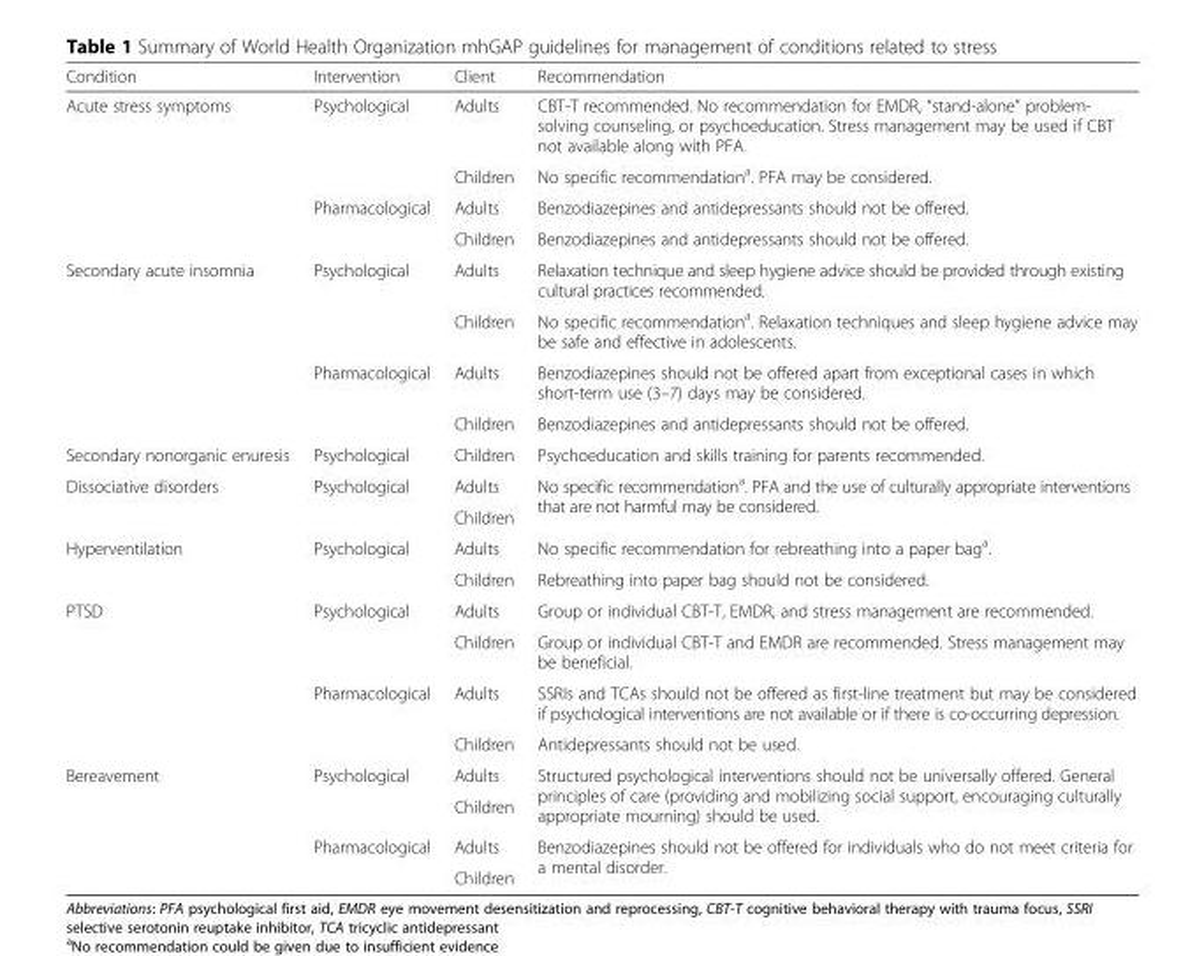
<table><thead><tr><td>Condition</td><td>Intervention</td><td>Client</td><td>Recommendation</td></tr></thead><tbody><tr><td rowspan="4">Acute stress symptoms</td><td rowspan="2">Psychological</td><td>Adults</td><td>CBT-T recommended. No recommendation for EMDR, “stand-alone” problem- solving counseling, or psychoeducation. Stress management may be used if CBT not available along with PFA.</td></tr><tr><td>Children</td><td>No specific recommendation<sup>a</sup>. PFA may be considered.</td></tr><tr><td rowspan="2">Pharmacological</td><td>Adults</td><td>Benzodiazepines and antidepressants should not be offered.</td></tr><tr><td>Children</td><td>Benzodiazepines and antidepressants should not be offered.</td></tr><tr><td rowspan="4">Secondary acute insomnia</td><td rowspan="2">Psychological</td><td>Adults</td><td>Relaxation technique and sleep hygiene advice should be provided through existing cultural practices recommended.</td></tr><tr><td>Children</td><td>No specific recommendation<sup>a</sup>. Relaxation techniques and sleep hygiene advice may be safe and effective in adolescents.</td></tr><tr><td rowspan="2">Pharmacological</td><td>Adults</td><td>Benzodiazepines should not be offered apart from exceptional cases in which short-term use (3–7) days may be considered.</td></tr><tr><td>Children</td><td>Benzodiazepines and antidepressants should not be offered.</td></tr><tr><td>Secondary nonorganic enuresis</td><td>Psychological</td><td>Children</td><td>Psychoeducation and skills training for parents recommended.</td></tr><tr><td rowspan="2">Dissociative disorders</td><td rowspan="2">Psychological</td><td>Adults</td><td rowspan="2">No specific recommendation<sup>a</sup>. PFA and the use of culturally appropriate interventions that are not harmful may be considered.</td></tr><tr><td>Children</td></tr><tr><td rowspan="2">Hyperventilation</td><td rowspan="2">Psychological</td><td>Adults</td><td>No specific recommendation for rebreathing into a paper bag<sup>a</sup>.</td></tr><tr><td>Children</td><td>Rebreathing into paper bag should not be considered.</td></tr><tr><td rowspan="4">PTSD</td><td rowspan="2">Psychological</td><td>Adults</td><td>Group or individual CBT-T, EMDR, and stress management are recommended.</td></tr><tr><td>Children</td><td>Group or individual CBT-T and EMDR are recommended. Stress management may be beneficial.</td></tr><tr><td rowspan="2">Pharmacological</td><td>Adults</td><td>SSRIs and TCAs should not be offered as first-line treatment but may be considered if psychological interventions are not available or if there is co-occurring depression.</td></tr><tr><td>Children</td><td>Antidepressants should not be used.</td></tr><tr><td rowspan="4">Bereavement</td><td rowspan="2">Psychological</td><td>Adults</td><td rowspan="2">Structured psychological interventions should not be universally offered. General principles of care (providing and mobilizing social support, encouraging culturally appropriate mourning) should be used.</td></tr><tr><td>Children</td></tr><tr><td rowspan="2">Pharmacological</td><td>Adults</td><td rowspan="2">Benzodiazepines should not be offered for individuals who do not meet criteria for a mental disorder.</td></tr><tr><td>Children</td></tr></tbody></table>